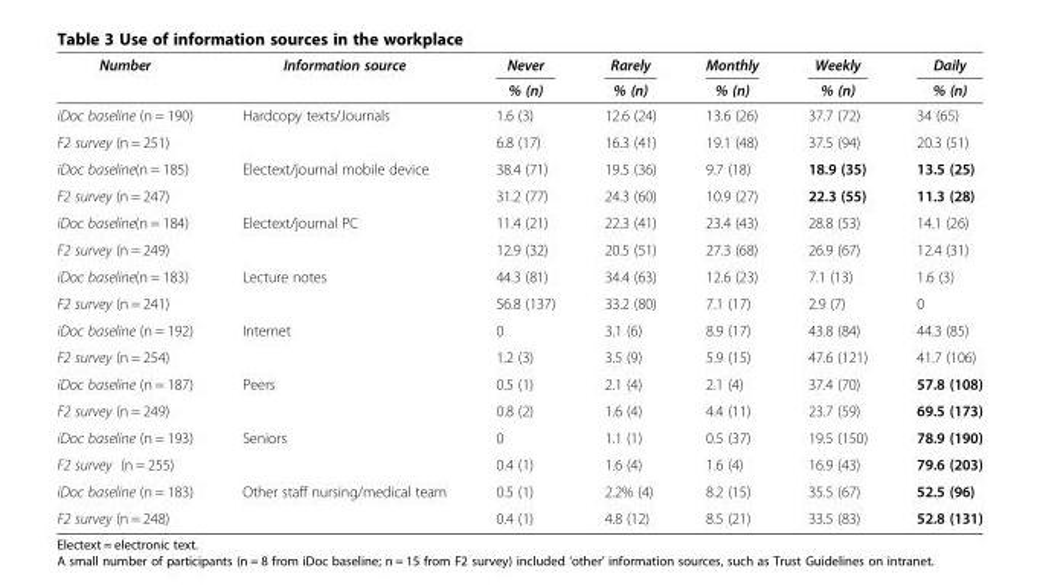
<table><thead><tr><td rowspan="2">Number</td><td rowspan="2">Information source</td><td rowspan="2">Never % (n)</td><td rowspan="2">Rarely % (n)</td><td rowspan="2">Monthly % (n)</td><td rowspan="2">Weekly % (n)</td><td rowspan="2">Daily % (n)</td></tr><tr></tr></thead><tbody><tr><td>iDoc baseline (n = 190)</td><td>Hardcopy texts/Journals</td><td>1.6 (3)</td><td>12.6 (24)</td><td>13.6 (26)</td><td>37.7 (72)</td><td>34 (65)</td></tr><tr><td>F2 survey (n = 251)</td><td></td><td>6.8 (17)</td><td>16.3 (41)</td><td>19.1 (48)</td><td>37.5 (94)</td><td>20.3 (51)</td></tr><tr><td>iDoc baseline(n = 185)</td><td>Electext/journal mobile device</td><td>38.4 (71)</td><td>19.5 (36)</td><td>9.7 (18)</td><td>18.9 (35)</td><td>13.5 (25)</td></tr><tr><td>F2 survey (n = 247)</td><td></td><td>31.2 (77)</td><td>24.3 (60)</td><td>10.9 (27)</td><td>22.3 (55)</td><td>11.3 (28)</td></tr><tr><td>iDoc baseline(n = 184)</td><td>Electext/journal PC</td><td>11.4 (21)</td><td>22.3 (41)</td><td>23.4 (43)</td><td>28.8 (53)</td><td>14.1 (26)</td></tr><tr><td>F2 survey (n = 249)</td><td></td><td>12.9 (32)</td><td>20.5 (51)</td><td>27.3 (68)</td><td>26.9 (67)</td><td>12.4 (31)</td></tr><tr><td>iDoc baseline(n = 183)</td><td>Lecture notes</td><td>44.3 (81)</td><td>34.4 (63)</td><td>12.6 (23)</td><td>7.1 (13)</td><td>1.6 (3)</td></tr><tr><td>F2 survey (n = 241)</td><td></td><td>56.8 (137)</td><td>33.2 (80)</td><td>7.1 (17)</td><td>2.9 (7)</td><td>0</td></tr><tr><td>iDoc baseline (n = 192)</td><td>Internet</td><td>0</td><td>3.1 (6)</td><td>8.9 (17)</td><td>43.8 (84)</td><td>44.3 (85)</td></tr><tr><td>F2 survey (n = 254)</td><td></td><td>1.2 (3)</td><td>3.5 (9)</td><td>5.9 (15)</td><td>47.6 (121)</td><td>41.7 (106)</td></tr><tr><td>iDoc baseline (n = 187)</td><td>Peers</td><td>0.5 (1)</td><td>2.1 (4)</td><td>2.1 (4)</td><td>37.4 (70)</td><td>57.8 (108)</td></tr><tr><td>F2 survey (n = 249)</td><td></td><td>0.8 (2)</td><td>1.6 (4)</td><td>4.4 (11)</td><td>23.7 (59)</td><td>69.5 (173)</td></tr><tr><td>iDoc baseline (n = 193)</td><td>Seniors</td><td>0</td><td>1.1 (1)</td><td>0.5 (37)</td><td>19.5 (150)</td><td>78.9 (190)</td></tr><tr><td>F2 survey (n = 255)</td><td></td><td>0.4 (1)</td><td>1.6 (4)</td><td>1.6 (4)</td><td>16.9 (43)</td><td>79.6 (203)</td></tr><tr><td>iDoc baseline (n = 183)</td><td>Other staff nursing/medical team</td><td>0.5 (1)</td><td>2.2% (4)</td><td>8.2 (15)</td><td>35.5 (67)</td><td>52.5 (96)</td></tr><tr><td>F2 survey (n = 248)</td><td></td><td>0.4 (1)</td><td>4.8 (12)</td><td>8.5 (21)</td><td>33.5 (83)</td><td>52.8 (131)</td></tr></tbody></table>